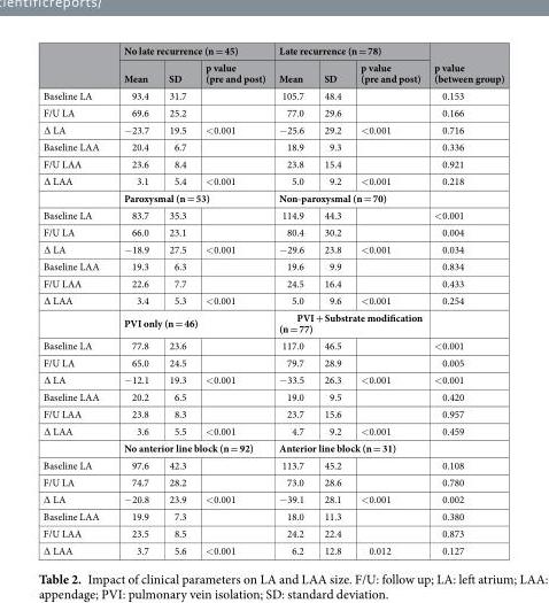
<table><thead><tr><td rowspan="2"></td><td colspan="3">No late recurrence (n = 45)</td><td colspan="3">Late recurrence (n = 78)</td><td rowspan="2">p value (between group)</td></tr><tr><td>Mean</td><td>SD</td><td>p value (pre and post)</td><td>Mean</td><td>SD</td><td>p value (pre and post)</td></tr></thead><tbody><tr><td>Baseline LA</td><td>93.4</td><td>31.7</td><td></td><td>105.7</td><td>48.4</td><td></td><td>0.153</td></tr><tr><td>F/U LA</td><td>69.6</td><td>25.2</td><td></td><td>77.0</td><td>29.6</td><td></td><td>0.166</td></tr><tr><td>∆ LA</td><td>−23.7</td><td>19.5</td><td>&lt;0.001</td><td>−25.6</td><td>29.2</td><td>&lt;0.001</td><td>0.716</td></tr><tr><td>Baseline LAA</td><td>20.4</td><td>6.7</td><td></td><td>18.9</td><td>9.3</td><td></td><td>0.336</td></tr><tr><td>F/U LAA</td><td>23.6</td><td>8.4</td><td></td><td>23.8</td><td>15.4</td><td></td><td>0.921</td></tr><tr><td rowspan="2">∆ LAA</td><td>3.1</td><td>5.4</td><td>&lt;0.001</td><td>5.0</td><td>9.2</td><td>&lt;0.001</td><td>0.218</td></tr><tr><td colspan="3">Paroxysmal (n = 53)</td><td colspan="3">Non-paroxysmal (n = 70)</td><td></td></tr><tr><td>Baseline LA</td><td>83.7</td><td>35.3</td><td></td><td>114.9</td><td>44.3</td><td></td><td>&lt;0.001</td></tr><tr><td>F/U LA</td><td>66.0</td><td>23.1</td><td></td><td>80.4</td><td>30.2</td><td></td><td>0.004</td></tr><tr><td>∆ LA</td><td>−18.9</td><td>27.5</td><td>&lt;0.001</td><td>−29.6</td><td>23.8</td><td>&lt;0.001</td><td>0.034</td></tr><tr><td>Baseline LAA</td><td>19.3</td><td>6.3</td><td></td><td>19.6</td><td>9.9</td><td></td><td>0.834</td></tr><tr><td>F/U LAA</td><td>22.6</td><td>7.7</td><td></td><td>24.5</td><td>16.4</td><td></td><td>0.433</td></tr><tr><td rowspan="2">∆ LAA</td><td>3.4</td><td>5.3</td><td>&lt;0.001</td><td>5.0</td><td>9.6</td><td>&lt;0.001</td><td>0.254</td></tr><tr><td colspan="3">PVI only (n = 46)</td><td colspan="3">PVI + Substrate modification (n = 77)</td><td></td></tr><tr><td>Baseline LA</td><td>77.8</td><td>23.6</td><td></td><td>117.0</td><td>46.5</td><td></td><td>&lt;0.001</td></tr><tr><td>F/U LA</td><td>65.0</td><td>24.5</td><td></td><td>79.7</td><td>28.9</td><td></td><td>0.005</td></tr><tr><td>∆ LA</td><td>−12.1</td><td>19.3</td><td>&lt;0.001</td><td>−33.5</td><td>26.3</td><td>&lt;0.001</td><td>&lt;0.001</td></tr><tr><td>Baseline LAA</td><td>20.2</td><td>6.5</td><td></td><td>19.0</td><td>9.5</td><td></td><td>0.420</td></tr><tr><td>F/U LAA</td><td>23.8</td><td>8.3</td><td></td><td>23.7</td><td>15.6</td><td></td><td>0.957</td></tr><tr><td rowspan="2">∆ LAA</td><td>3.6</td><td>5.5</td><td>&lt;0.001</td><td>4.7</td><td>9.2</td><td>&lt;0.001</td><td>0.459</td></tr><tr><td colspan="3">No anterior line block (n = 92)</td><td colspan="3">Anterior line block (n = 31)</td><td></td></tr><tr><td>Baseline LA</td><td>97.6</td><td>42.3</td><td></td><td>113.7</td><td>45.2</td><td></td><td>0.108</td></tr><tr><td>F/U LA</td><td>74.7</td><td>28.2</td><td></td><td>73.0</td><td>28.6</td><td></td><td>0.780</td></tr><tr><td>∆ LA</td><td>−20.8</td><td>23.9</td><td>&lt;0.001</td><td>−39.1</td><td>28.1</td><td>&lt;0.001</td><td>0.002</td></tr><tr><td>Baseline LAA</td><td>19.9</td><td>7.3</td><td></td><td>18.0</td><td>11.3</td><td></td><td>0.380</td></tr><tr><td>F/U LAA</td><td>23.5</td><td>8.5</td><td></td><td>24.2</td><td>22.4</td><td></td><td>0.873</td></tr><tr><td>∆ LAA</td><td>3.7</td><td>5.6</td><td>&lt;0.001</td><td>6.2</td><td>12.8</td><td>0.012</td><td>0.127</td></tr></tbody></table>